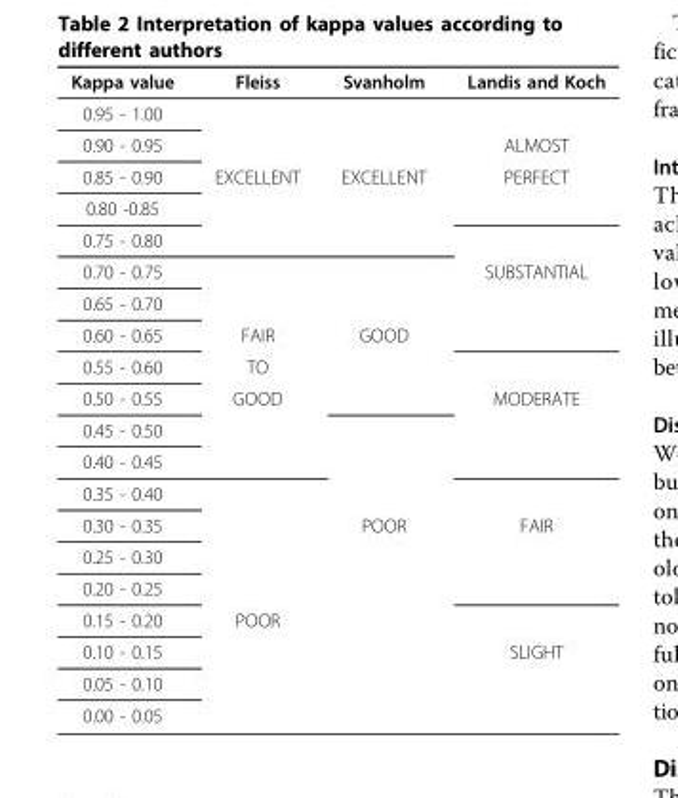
<table><thead><tr><td>Kappa value</td><td>Fleiss</td><td>Svanholm</td><td>Landis and Koch</td></tr></thead><tbody><tr><td colspan="4">0.95 - 1.00</td></tr><tr><td>0.90 - 0.95</td><td></td><td></td><td>ALMOST</td></tr><tr><td>0.85 - 0.90</td><td>EXCELLENT</td><td>EXCELLENT</td><td>PERFECT</td></tr><tr><td colspan="4">0.80 -0.85</td></tr><tr><td colspan="4">0.75 - 0.80</td></tr><tr><td>0.70 - 0.75</td><td></td><td></td><td>SUBSTANTIAL</td></tr><tr><td colspan="4">0.65 - 0.70</td></tr><tr><td>0.60 - 0.65</td><td>FAIR</td><td>GOOD</td><td></td></tr><tr><td>0.55 - 0.60</td><td>TO</td><td></td><td></td></tr><tr><td>0.50 - 0.55</td><td>GOOD</td><td></td><td>MODERATE</td></tr><tr><td colspan="4">0.45 - 0.50</td></tr><tr><td colspan="4">0.40 - 0.45</td></tr><tr><td colspan="4">0.35 - 0.40</td></tr><tr><td>0.30 - 0.35</td><td></td><td>POOR</td><td>FAIR</td></tr><tr><td colspan="4">0.25 - 0.30</td></tr><tr><td colspan="4">0.20 - 0.25</td></tr><tr><td>0.15 - 0.20</td><td>POOR</td><td></td><td></td></tr><tr><td>0.10 - 0.15</td><td></td><td></td><td>SLIGHT</td></tr><tr><td colspan="4">0.05 - 0.10</td></tr><tr><td>0.00 - 0.05</td><td></td><td></td><td></td></tr></tbody></table>